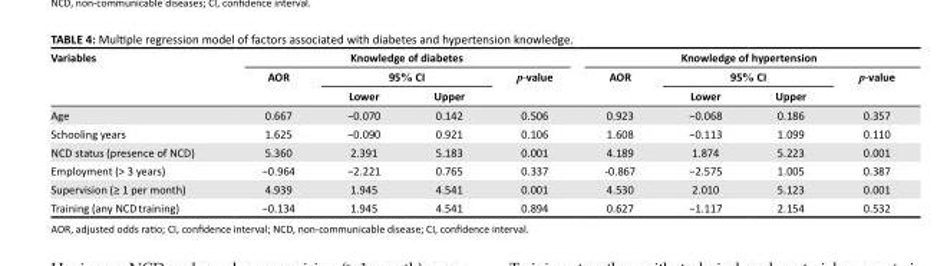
<table><thead><tr><td rowspan="3">Variables</td><td colspan="4">Knowledge of diabetes</td><td colspan="4">Knowledge of hypertension</td></tr><tr><td rowspan="2">AOR</td><td colspan="2">95% CI</td><td rowspan="2">p-value</td><td rowspan="2">AOR</td><td colspan="2">95% CI</td><td rowspan="2">p-value</td></tr><tr><td>Lower</td><td>Upper</td><td>Lower</td><td>Upper</td></tr></thead><tbody><tr><td>Age</td><td>0.667</td><td>−0.070</td><td>0.142</td><td>0.506</td><td>0.923</td><td>−0.068</td><td>0.186</td><td>0.357</td></tr><tr><td>Schooling years</td><td>1.625</td><td>−0.090</td><td>0.921</td><td>0.106</td><td>1.608</td><td>−0.113</td><td>1.099</td><td>0.110</td></tr><tr><td>NCD status (presence of NCD)</td><td>5.360</td><td>2.391</td><td>5.183</td><td>0.001</td><td>4.189</td><td>1.874</td><td>5.223</td><td>0.001</td></tr><tr><td>Employment (&gt; 3 years)</td><td>−0.964</td><td>−2.221</td><td>0.765</td><td>0.337</td><td>-0.867</td><td>−2.575</td><td>1.005</td><td>0.387</td></tr><tr><td>Supervision (≥ 1 per month)</td><td>4.939</td><td>1.945</td><td>4.541</td><td>0.001</td><td>4.530</td><td>2.010</td><td>5.123</td><td>0.001</td></tr><tr><td>Training (any NCD training)</td><td>−0.134</td><td>1.945</td><td>4.541</td><td>0.894</td><td>0.627</td><td>−1.117</td><td>2.154</td><td>0.532</td></tr></tbody></table>